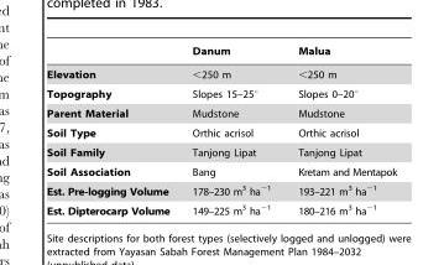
<table><thead><tr><td></td><td>Danum</td><td>Malua</td></tr></thead><tbody><tr><td>Elevation</td><td>&lt;250 m</td><td>&lt;250 m</td></tr><tr><td>Topography</td><td>Slopes 15–25°</td><td>Slopes 0–20°</td></tr><tr><td>Parent Material</td><td>Mudstone</td><td>Mudstone</td></tr><tr><td>Soil Type</td><td>Orthic acrisol</td><td>Orthic acrisol</td></tr><tr><td>Soil Family</td><td>Tanjong Lipat</td><td>Tanjong Lipat</td></tr><tr><td>Soil Association</td><td>Bang</td><td>Kretam and Mentapok</td></tr><tr><td>Est. Pre-logging Volume</td><td>178–230 m<sup>3</sup> ha<sup>−1</sup></td><td>193–221 m<sup>3</sup> ha<sup>−1</sup></td></tr><tr><td>Est. Dipterocarp Volume</td><td>149–225 m<sup>3</sup> ha<sup>−1</sup></td><td>180–216 m<sup>3</sup> ha<sup>−1</sup></td></tr></tbody></table>